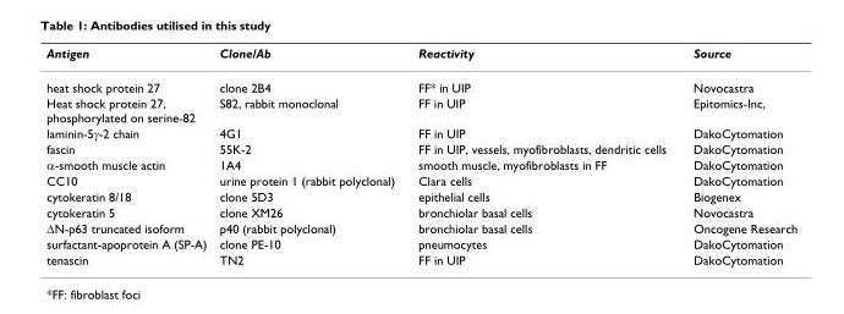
<table><thead><tr><td>Antigen</td><td>Clone/Ab</td><td>Reactivity</td><td>Source</td></tr></thead><tbody><tr><td>heat shock protein 27</td><td>clone 2B4</td><td>FF* in UIP</td><td>Novocastra</td></tr><tr><td>Heat shock protein 27, phosphorylated on serine-82</td><td>S82, rabbit monoclonal</td><td>FF in UIP</td><td>Epitomics-Inc,</td></tr><tr><td>laminin-5γ-2 chain</td><td>4G1</td><td>FF in UIP</td><td>DakoCytomation</td></tr><tr><td>fascin</td><td>55K-2</td><td>FF in UIP, vessels, myofibroblasts, dendritic cells</td><td>DakoCytomation</td></tr><tr><td>α-smooth muscle actin</td><td>1A4</td><td>smooth muscle, myofibroblasts in FF</td><td>DakoCytomation</td></tr><tr><td>CC10</td><td>urine protein 1 (rabbit polyclonal)</td><td>Clara cells</td><td>DakoCytomation</td></tr><tr><td>cytokeratin 8/18</td><td>clone 5D3</td><td>epithelial cells</td><td>Biogenex</td></tr><tr><td>cytokeratin 5</td><td>clone XM26</td><td>bronchiolar basal cells</td><td>Novocastra</td></tr><tr><td>∆N-p63 truncated isoform</td><td>p40 (rabbit polyclonal)</td><td>bronchiolar basal cells</td><td>Oncogene Research</td></tr><tr><td>surfactant-apoprotein A (SP-A)</td><td>clone PE-10</td><td>pneumocytes</td><td>DakoCytomation</td></tr><tr><td>tenascin</td><td>TN2</td><td>FF in UIP</td><td>DakoCytomation</td></tr></tbody></table>